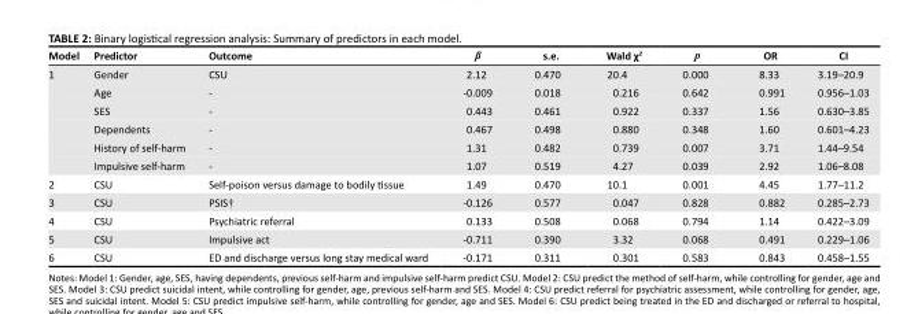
<table><thead><tr><td>Model</td><td>Predictor</td><td>Outcome</td><td>β</td><td>s.e.</td><td>Wald χ<sup>2</sup></td><td>p</td><td>OR</td><td>CI</td></tr></thead><tbody><tr><td rowspan="6">1</td><td>Gender</td><td>CSU</td><td>2.12</td><td>0.470</td><td>20.4</td><td>0.000</td><td>8.33</td><td>3.19–20.9</td></tr><tr><td>Age</td><td>-</td><td>-0.009</td><td>0.018</td><td>0.216</td><td>0.642</td><td>0.991</td><td>0.956–1.03</td></tr><tr><td>SES</td><td>-</td><td>0.443</td><td>0.461</td><td>0.922</td><td>0.337</td><td>1.56</td><td>0.630–3.85</td></tr><tr><td>Dependents</td><td>-</td><td>0.467</td><td>0.498</td><td>0.880</td><td>0.348</td><td>1.60</td><td>0.601–4.23</td></tr><tr><td>History of self-harm</td><td>-</td><td>1.31</td><td>0.482</td><td>0.739</td><td>0.007</td><td>3.71</td><td>1.44–9.54</td></tr><tr><td>Impulsive self-harm</td><td>-</td><td>1.07</td><td>0.519</td><td>4.27</td><td>0.039</td><td>2.92</td><td>1.06–8.08</td></tr><tr><td>2</td><td>CSU</td><td>Self-poison versus damage to bodily tissue</td><td>1.49</td><td>0.470</td><td>10.1</td><td>0.001</td><td>4.45</td><td>1.77–11.2</td></tr><tr><td>3</td><td>CSU</td><td>PSIS†</td><td>-0.126</td><td>0.577</td><td>0.047</td><td>0.828</td><td>0.882</td><td>0.285–2.73</td></tr><tr><td>4</td><td>CSU</td><td>Psychiatric referral</td><td>0.133</td><td>0.508</td><td>0.068</td><td>0.794</td><td>1.14</td><td>0.422–3.09</td></tr><tr><td>5</td><td>CSU</td><td>Impulsive act</td><td>-0.711</td><td>0.390</td><td>3.32</td><td>0.068</td><td>0.491</td><td>0.229–1.06</td></tr><tr><td>6</td><td>CSU</td><td>ED and discharge versus long stay medical ward</td><td>-0.171</td><td>0.311</td><td>0.301</td><td>0.583</td><td>0.843</td><td>0.458–1.55</td></tr></tbody></table>